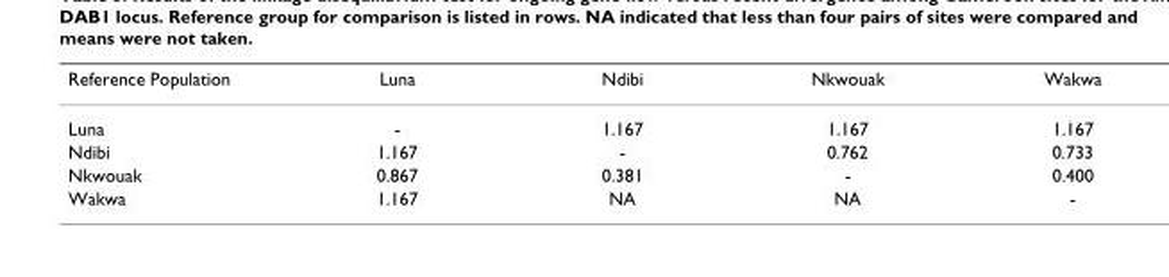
<table><thead><tr><td>Reference Population</td><td>Luna</td><td>Ndibi</td><td>Nkwouak</td><td>Wakwa</td></tr></thead><tbody><tr><td>Luna</td><td>-</td><td>1.167</td><td>1.167</td><td>1.167</td></tr><tr><td>Ndibi</td><td>1.167</td><td>-</td><td>0.762</td><td>0.733</td></tr><tr><td>Nkwouak</td><td>0.867</td><td>0.381</td><td>-</td><td>0.400</td></tr><tr><td>Wakwa</td><td>1.167</td><td>NA</td><td>NA</td><td>-</td></tr></tbody></table>